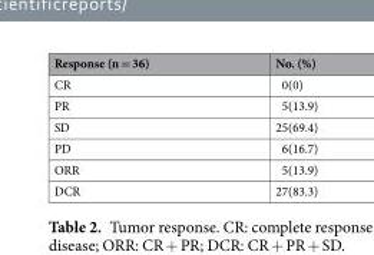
<table><thead><tr><td>Response (n = 36)</td><td>No. (%)</td></tr></thead><tbody><tr><td>CR</td><td>0(0)</td></tr><tr><td>PR</td><td>5(13.9)</td></tr><tr><td>SD</td><td>25(69.4)</td></tr><tr><td>PD</td><td>6(16.7)</td></tr><tr><td>ORR</td><td>5(13.9)</td></tr><tr><td>DCR</td><td>27(83.3)</td></tr></tbody></table>